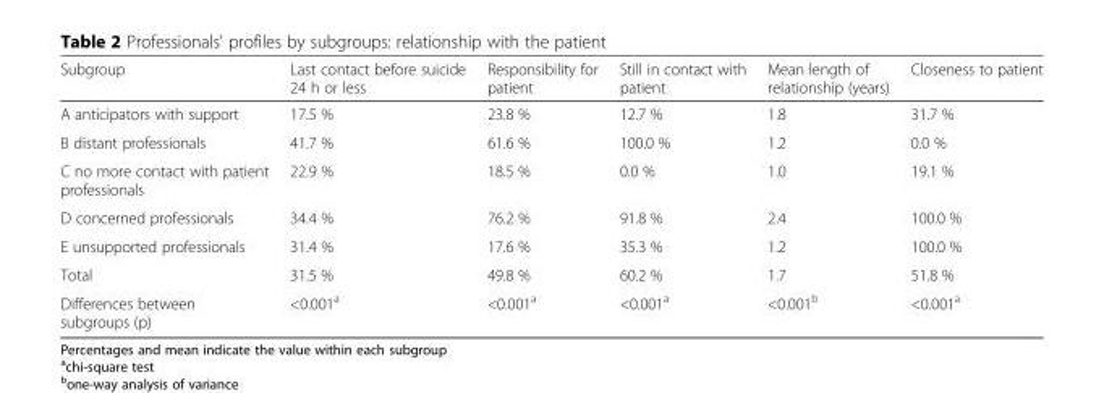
<table><thead><tr><td>Subgroup</td><td>Last contact before suicide 24 h or less</td><td>Responsibility for patient</td><td>Still in contact with patient</td><td>Mean length of relationship (years)</td><td>Closeness to patient</td></tr></thead><tbody><tr><td>A anticipators with support</td><td>17.5 %</td><td>23.8 %</td><td>12.7 %</td><td>1.8</td><td>31.7 %</td></tr><tr><td>B distant professionals</td><td>41.7 %</td><td>61.6 %</td><td>100.0 %</td><td>1.2</td><td>0.0 %</td></tr><tr><td>C no more contact with patient professionals</td><td>22.9 %</td><td>18.5 %</td><td>0.0 %</td><td>1.0</td><td>19.1 %</td></tr><tr><td>D concerned professionals</td><td>34.4 %</td><td>76.2 %</td><td>91.8 %</td><td>2.4</td><td>100.0 %</td></tr><tr><td>E unsupported professionals</td><td>31.4 %</td><td>17.6 %</td><td>35.3 %</td><td>1.2</td><td>100.0 %</td></tr><tr><td>Total</td><td>31.5 %</td><td>49.8 %</td><td>60.2 %</td><td>1.7</td><td>51.8 %</td></tr><tr><td>Differences between subgroups (p)</td><td>&lt;0.001<sup>a</sup></td><td>&lt;0.001<sup>a</sup></td><td>&lt;0.001<sup>a</sup></td><td>&lt;0.001<sup>b</sup></td><td>&lt;0.001<sup>a</sup></td></tr></tbody></table>